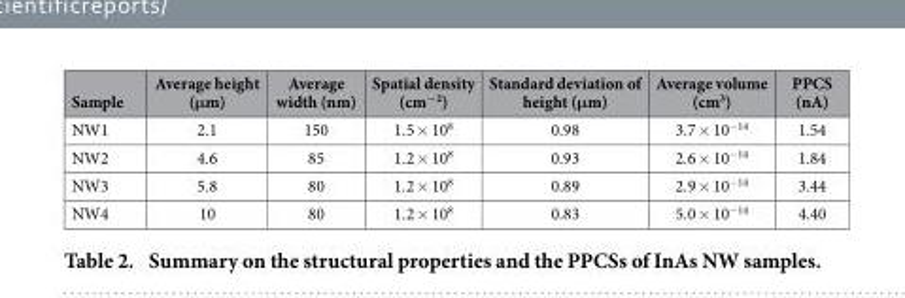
<table><thead><tr><td>Sample</td><td>Average height (μm)</td><td>Average width (nm)</td><td>Spatial density (cm<sup>−2</sup>)</td><td>Standard deviation of height (μm)</td><td>Average volume (cm<sup>3</sup>)</td><td>PPCS (nA)</td></tr></thead><tbody><tr><td>NW1</td><td>2.1</td><td>150</td><td>1.5 × 10<sup>8</sup></td><td>0.98</td><td>3.7 × 10<sup>−14</sup></td><td>1.54</td></tr><tr><td>NW2</td><td>4.6</td><td>85</td><td>1.2 × 10<sup>8</sup></td><td>0.93</td><td>2.6 × 10<sup>−14</sup></td><td>1.84</td></tr><tr><td>NW3</td><td>5.8</td><td>80</td><td>1.2 × 10<sup>8</sup></td><td>0.89</td><td>2.9 × 10<sup>−14</sup></td><td>3.44</td></tr><tr><td>NW4</td><td>10</td><td>80</td><td>1.2 × 10<sup>8</sup></td><td>0.83</td><td>5.0 × 10<sup>−14</sup></td><td>4.40</td></tr></tbody></table>